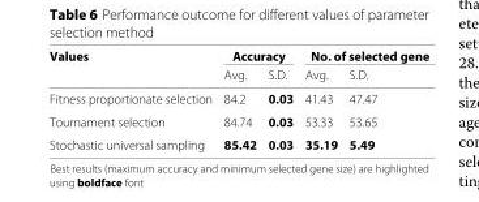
<table><thead><tr><td rowspan="2">Values</td><td colspan="2">Accuracy</td><td colspan="2">No. of selected gene</td></tr><tr><td>Avg.</td><td>S.D.</td><td>Avg.</td><td>S.D.</td></tr></thead><tbody><tr><td>Fitness proportionate selection</td><td>84.2</td><td>0.03</td><td>41.43</td><td>47.47</td></tr><tr><td>Tournament selection</td><td>84.74</td><td>0.03</td><td>53.33</td><td>53.65</td></tr><tr><td>Stochastic universal sampling</td><td>85.42</td><td>0.03</td><td>35.19</td><td>5.49</td></tr></tbody></table>